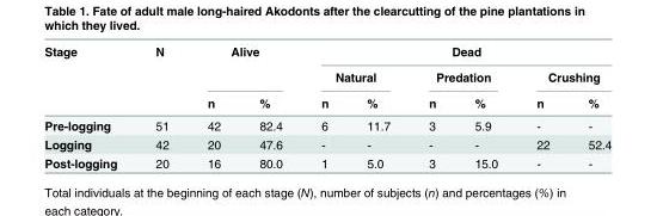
<table><thead><tr><td rowspan="3">Stage</td><td rowspan="3">N</td><td rowspan="2" colspan="2">Alive</td><td colspan="6">Dead</td></tr><tr><td colspan="2">Natural</td><td colspan="2">Predation</td><td colspan="2">Crushing</td></tr><tr><td>n</td><td>%</td><td>n</td><td>%</td><td>n</td><td>%</td><td>n</td><td>%</td></tr></thead><tbody><tr><td>Pre-logging</td><td>51</td><td>42</td><td>82.4</td><td>6</td><td>11.7</td><td>3</td><td>5.9</td><td>-</td><td>-</td></tr><tr><td>Logging</td><td>42</td><td>20</td><td>47.6</td><td>-</td><td>-</td><td>-</td><td>-</td><td>22</td><td>52.4</td></tr><tr><td>Post-logging</td><td>20</td><td>16</td><td>80.0</td><td>1</td><td>5.0</td><td>3</td><td>15.0</td><td>-</td><td>-</td></tr></tbody></table>